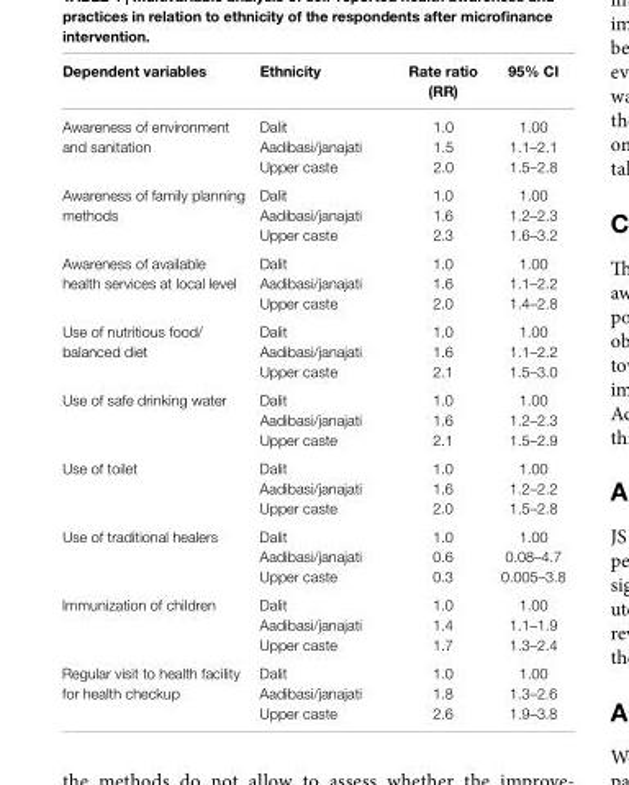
<table><thead><tr><td>Dependent variables</td><td>ethnicity</td><td>rate ratio (rr)</td><td>95% ci</td></tr></thead><tbody><tr><td rowspan="3">Awareness of environment and sanitation</td><td>Dalit</td><td>1.0</td><td>1.00</td></tr><tr><td>Aadibasi/janajati</td><td>1.5</td><td>1.1–2.1</td></tr><tr><td>Upper caste</td><td>2.0</td><td>1.5–2.8</td></tr><tr><td rowspan="3">Awareness of family planning methods</td><td>Dalit</td><td>1.0</td><td>1.00</td></tr><tr><td>Aadibasi/janajati</td><td>1.6</td><td>1.2–2.3</td></tr><tr><td>Upper caste</td><td>2.3</td><td>1.6–3.2</td></tr><tr><td rowspan="3">Awareness of available health services at local level</td><td>Dalit</td><td>1.0</td><td>1.00</td></tr><tr><td>Aadibasi/janajati</td><td>1.6</td><td>1.1–2.2</td></tr><tr><td>Upper caste</td><td>2.0</td><td>1.4–2.8</td></tr><tr><td rowspan="3">Use of nutritious food/ balanced diet</td><td>Dalit</td><td>1.0</td><td>1.00</td></tr><tr><td>Aadibasi/janajati</td><td>1.6</td><td>1.1–2.2</td></tr><tr><td>Upper caste</td><td>2.1</td><td>1.5–3.0</td></tr><tr><td rowspan="3">Use of safe drinking water</td><td>Dalit</td><td>1.0</td><td>1.00</td></tr><tr><td>Aadibasi/janajati</td><td>1.6</td><td>1.2–2.3</td></tr><tr><td>Upper caste</td><td>2.1</td><td>1.5–2.9</td></tr><tr><td rowspan="3">Use of toilet</td><td>Dalit</td><td>1.0</td><td>1.00</td></tr><tr><td>Aadibasi/janajati</td><td>1.6</td><td>1.2–2.2</td></tr><tr><td>Upper caste</td><td>2.0</td><td>1.5–2.8</td></tr><tr><td rowspan="3">Use of traditional healers</td><td>Dalit</td><td>1.0</td><td>1.00</td></tr><tr><td>Aadibasi/janajati</td><td>0.6</td><td>0.08–4.7</td></tr><tr><td>Upper caste</td><td>0.3</td><td>0.005–3.8</td></tr><tr><td rowspan="3">Immunization of children</td><td>Dalit</td><td>1.0</td><td>1.00</td></tr><tr><td>Aadibasi/janajati</td><td>1.4</td><td>1.1–1.9</td></tr><tr><td>Upper caste</td><td>1.7</td><td>1.3–2.4</td></tr><tr><td rowspan="3">Regular visit to health facility for health checkup</td><td>Dalit</td><td>1.0</td><td>1.00</td></tr><tr><td>Aadibasi/janajati</td><td>1.8</td><td>1.3–2.6</td></tr><tr><td>Upper caste</td><td>2.6</td><td>1.9–3.8</td></tr></tbody></table>